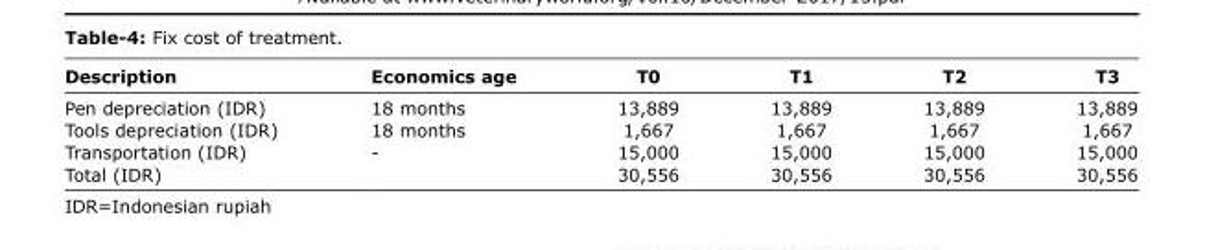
<table><thead><tr><td>Description</td><td>Economics age</td><td>T0</td><td>T1</td><td>T2</td><td>T3</td></tr></thead><tbody><tr><td>Pen depreciation (IDR)</td><td>18 months</td><td>13,889</td><td>13,889</td><td>13,889</td><td>13,889</td></tr><tr><td>Tools depreciation (IDR)</td><td>18 months</td><td>1,667</td><td>1,667</td><td>1,667</td><td>1,667</td></tr><tr><td>Transportation (IDR)</td><td>-</td><td>15,000</td><td>15,000</td><td>15,000</td><td>15,000</td></tr><tr><td>Total (IDR)</td><td></td><td>30,556</td><td>30,556</td><td>30,556</td><td>30,556</td></tr></tbody></table>